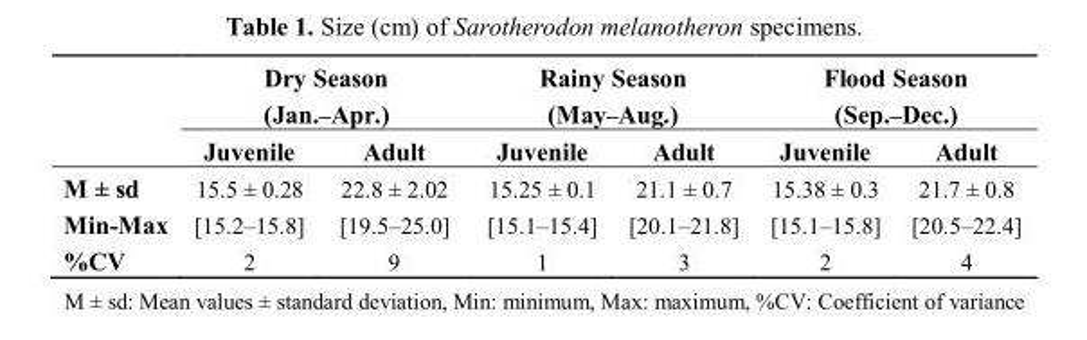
<table><thead><tr><td rowspan="2"></td><td colspan="2">Dry Season (Jan.–Apr.)</td><td colspan="2">Rainy Season (May–Aug.)</td><td colspan="2">Flood Season (Sep.–Dec.)</td></tr><tr><td>Juvenile</td><td>Adult</td><td>Juvenile</td><td>Adult</td><td>Juvenile</td><td>Adult</td></tr></thead><tbody><tr><td>M ± sd</td><td>15.5 ± 0.28</td><td>22.8 ± 2.02</td><td>15.25 ± 0.1</td><td>21.1 ± 0.7</td><td>15.38 ± 0.3</td><td>21.7 ± 0.8</td></tr><tr><td>Min-Max</td><td>[15.2–15.8]</td><td>[19.5–25.0]</td><td>[15.1–15.4]</td><td>[20.1–21.8]</td><td>[15.1–15.8]</td><td>[20.5–22.4]</td></tr><tr><td>%CV</td><td>2</td><td>9</td><td>1</td><td>3</td><td>2</td><td>4</td></tr></tbody></table>